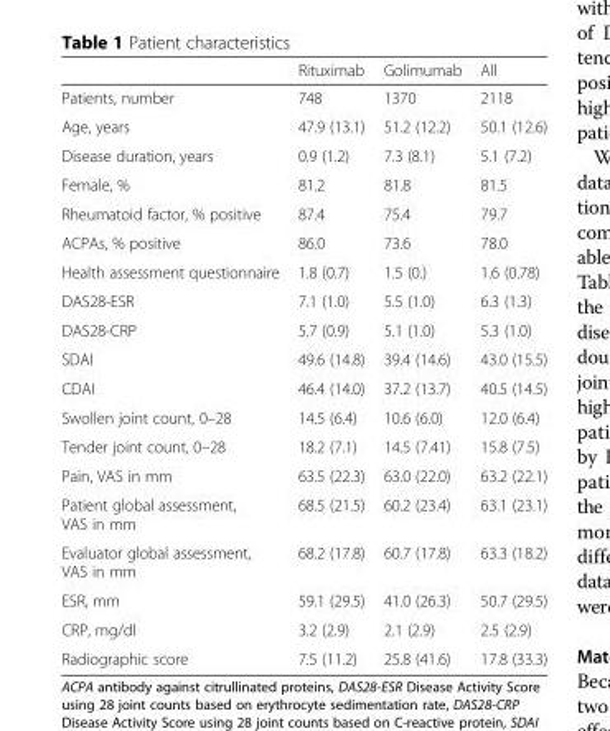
<table><thead><tr><td></td><td>Rituximab</td><td>Golimumab</td><td>All</td></tr></thead><tbody><tr><td>Patients, number</td><td>748</td><td>1370</td><td>2118</td></tr><tr><td>Age, years</td><td>47.9 (13.1)</td><td>51.2 (12.2)</td><td>50.1 (12.6)</td></tr><tr><td>Disease duration, years</td><td>0.9 (1.2)</td><td>7.3 (8.1)</td><td>5.1 (7.2)</td></tr><tr><td>Female, %</td><td>81.2</td><td>81.8</td><td>81.5</td></tr><tr><td>Rheumatoid factor, % positive</td><td>87.4</td><td>75.4</td><td>79.7</td></tr><tr><td>ACPAs, % positive</td><td>86.0</td><td>73.6</td><td>78.0</td></tr><tr><td>Health assessment questionnaire</td><td>1.8 (0.7)</td><td>1.5 (0.)</td><td>1.6 (0.78)</td></tr><tr><td>DAS28-ESR</td><td>7.1 (1.0)</td><td>5.5 (1.0)</td><td>6.3 (1.3)</td></tr><tr><td>DAS28-CRP</td><td>5.7 (0.9)</td><td>5.1 (1.0)</td><td>5.3 (1.0)</td></tr><tr><td>SDAI</td><td>49.6 (14.8)</td><td>39.4 (14.6)</td><td>43.0 (15.5)</td></tr><tr><td>CDAI</td><td>46.4 (14.0)</td><td>37.2 (13.7)</td><td>40.5 (14.5)</td></tr><tr><td>Swollen joint count, 0–28</td><td>14.5 (6.4)</td><td>10.6 (6.0)</td><td>12.0 (6.4)</td></tr><tr><td>Tender joint count, 0–28</td><td>18.2 (7.1)</td><td>14.5 (7.41)</td><td>15.8 (7.5)</td></tr><tr><td>Pain, VAS in mm</td><td>63.5 (22.3)</td><td>63.0 (22.0)</td><td>63.2 (22.1)</td></tr><tr><td>Patient global assessment, VAS in mm</td><td>68.5 (21.5)</td><td>60.2 (23.4)</td><td>63.1 (23.1)</td></tr><tr><td>Evaluator global assessment, VAS in mm</td><td>68.2 (17.8)</td><td>60.7 (17.8)</td><td>63.3 (18.2)</td></tr><tr><td>ESR, mm</td><td>59.1 (29.5)</td><td>41.0 (26.3)</td><td>50.7 (29.5)</td></tr><tr><td>CRP, mg/dl</td><td>3.2 (2.9)</td><td>2.1 (2.9)</td><td>2.5 (2.9)</td></tr><tr><td>Radiographic score</td><td>7.5 (11.2)</td><td>25.8 (41.6)</td><td>17.8 (33.3)</td></tr></tbody></table>